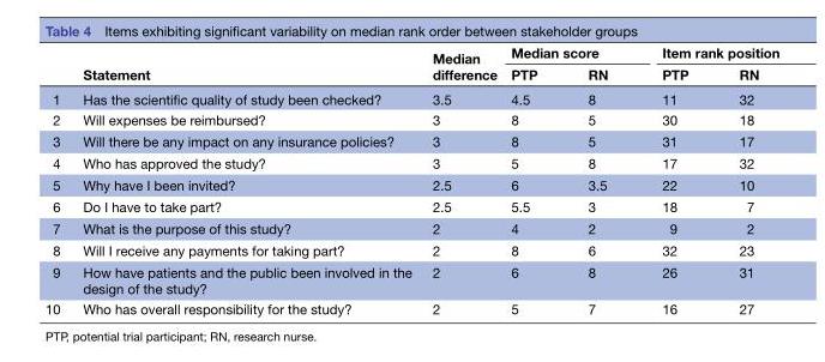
<table><thead><tr><td rowspan="2"></td><td rowspan="2">Statement</td><td rowspan="2">Median difference</td><td colspan="2">Median score</td><td colspan="2">Item rank position</td></tr><tr><td>PTP</td><td>RN</td><td>PTP</td><td>RN</td></tr></thead><tbody><tr><td>1</td><td>Has the scientific quality of study been checked?</td><td>3.5</td><td>4.5</td><td>8</td><td>11</td><td>32</td></tr><tr><td>2</td><td>Will expenses be reimbursed?</td><td>3</td><td>8</td><td>5</td><td>30</td><td>18</td></tr><tr><td>3</td><td>Will there be any impact on any insurance policies?</td><td>3</td><td>8</td><td>5</td><td>31</td><td>17</td></tr><tr><td>4</td><td>Who has approved the study?</td><td>3</td><td>5</td><td>8</td><td>17</td><td>32</td></tr><tr><td>5</td><td>Why have I been invited?</td><td>2.5</td><td>6</td><td>3.5</td><td>22</td><td>10</td></tr><tr><td>6</td><td>Do I have to take part?</td><td>2.5</td><td>5.5</td><td>3</td><td>18</td><td>7</td></tr><tr><td>7</td><td>What is the purpose of this study?</td><td>2</td><td>4</td><td>2</td><td>9</td><td>2</td></tr><tr><td>8</td><td>Will I receive any payments for taking part?</td><td>2</td><td>8</td><td>6</td><td>32</td><td>23</td></tr><tr><td>9</td><td>How have patients and the public been involved in the design of the study?</td><td>2</td><td>6</td><td>8</td><td>26</td><td>31</td></tr><tr><td>10</td><td>Who has overall responsibility for the study?</td><td>2</td><td>5</td><td>7</td><td>16</td><td>27</td></tr></tbody></table>